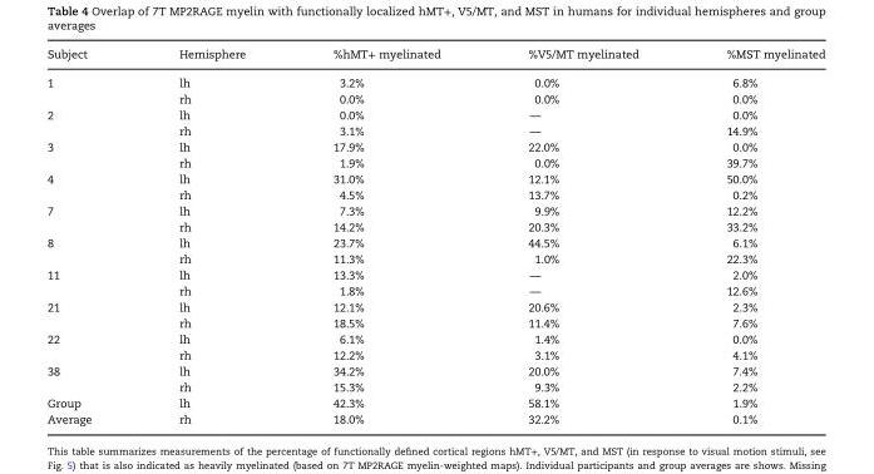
<table><thead><tr><td>Subject</td><td>Hemisphere</td><td>%hMT+ myelinated</td><td>%V5/MT myelinated</td><td>%MST myelinated</td></tr></thead><tbody><tr><td rowspan="2">1</td><td>lh</td><td>3.2%</td><td>0.0%</td><td>6.8%</td></tr><tr><td>rh</td><td>0.0%</td><td>0.0%</td><td>0.0%</td></tr><tr><td rowspan="2">2</td><td>lh</td><td>0.0%</td><td>—</td><td>0.0%</td></tr><tr><td>rh</td><td>3.1%</td><td>—</td><td>14.9%</td></tr><tr><td rowspan="2">3</td><td>lh</td><td>17.9%</td><td>22.0%</td><td>0.0%</td></tr><tr><td>rh</td><td>1.9%</td><td>0.0%</td><td>39.7%</td></tr><tr><td rowspan="2">4</td><td>lh</td><td>31.0%</td><td>12.1%</td><td>50.0%</td></tr><tr><td>rh</td><td>4.5%</td><td>13.7%</td><td>0.2%</td></tr><tr><td rowspan="2">7</td><td>lh</td><td>7.3%</td><td>9.9%</td><td>12.2%</td></tr><tr><td>rh</td><td>14.2%</td><td>20.3%</td><td>33.2%</td></tr><tr><td rowspan="2">8</td><td>lh</td><td>23.7%</td><td>44.5%</td><td>6.1%</td></tr><tr><td>rh</td><td>11.3%</td><td>1.0%</td><td>22.3%</td></tr><tr><td rowspan="2">11</td><td>lh</td><td>13.3%</td><td>—</td><td>2.0%</td></tr><tr><td>rh</td><td>1.8%</td><td>—</td><td>12.6%</td></tr><tr><td rowspan="2">21</td><td>lh</td><td>12.1%</td><td>20.6%</td><td>2.3%</td></tr><tr><td>rh</td><td>18.5%</td><td>11.4%</td><td>7.6%</td></tr><tr><td rowspan="2">22</td><td>lh</td><td>6.1%</td><td>1.4%</td><td>0.0%</td></tr><tr><td>rh</td><td>12.2%</td><td>3.1%</td><td>4.1%</td></tr><tr><td rowspan="2">38</td><td>lh</td><td>34.2%</td><td>20.0%</td><td>7.4%</td></tr><tr><td>rh</td><td>15.3%</td><td>9.3%</td><td>2.2%</td></tr><tr><td>Group</td><td>lh</td><td>42.3%</td><td>58.1%</td><td>1.9%</td></tr><tr><td>Average</td><td>rh</td><td>18.0%</td><td>32.2%</td><td>0.1%</td></tr></tbody></table>